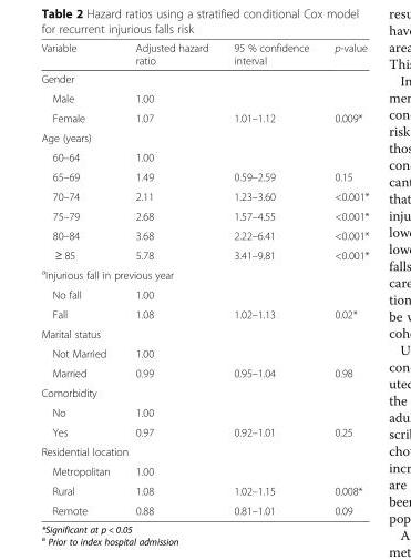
<table><thead><tr><td>Variable</td><td>Adjusted hazard ratio</td><td>95 % confidence interval</td><td>p-value</td></tr></thead><tbody><tr><td colspan="4">Gender</td></tr><tr><td>Male</td><td>1.00</td><td></td><td></td></tr><tr><td>Female</td><td>1.07</td><td>1.01–1.12</td><td>0.009*</td></tr><tr><td colspan="4">Age (years)</td></tr><tr><td>60–64</td><td>1.00</td><td></td><td></td></tr><tr><td>65–69</td><td>1.49</td><td>0.59–2.59</td><td>0.15</td></tr><tr><td>70–74</td><td>2.11</td><td>1.23–3.60</td><td>&lt;0.001*</td></tr><tr><td>75–79</td><td>2.68</td><td>1.57–4.55</td><td>&lt;0.001*</td></tr><tr><td>80–84</td><td>3.68</td><td>2.22–6.41</td><td>&lt;0.001*</td></tr><tr><td>≥ 85</td><td>5.78</td><td>3.41–9.81</td><td>&lt;0.001*</td></tr><tr><td colspan="4"><sup>a</sup>Injurious fall in previous year</td></tr><tr><td>No fall</td><td>1.00</td><td></td><td></td></tr><tr><td>Fall</td><td>1.08</td><td>1.02–1.13</td><td>0.02*</td></tr><tr><td colspan="4">Marital status</td></tr><tr><td>Not Married</td><td>1.00</td><td></td><td></td></tr><tr><td>Married</td><td>0.99</td><td>0.95–1.04</td><td>0.98</td></tr><tr><td colspan="4">Comorbidity</td></tr><tr><td>No</td><td>1.00</td><td></td><td></td></tr><tr><td>Yes</td><td>0.97</td><td>0.92–1.01</td><td>0.25</td></tr><tr><td colspan="4">Residential location</td></tr><tr><td>Metropolitan</td><td>1.00</td><td></td><td></td></tr><tr><td>Rural</td><td>1.08</td><td>1.02–1.15</td><td>0.008*</td></tr><tr><td>Remote</td><td>0.88</td><td>0.81–1.01</td><td>0.09</td></tr></tbody></table>